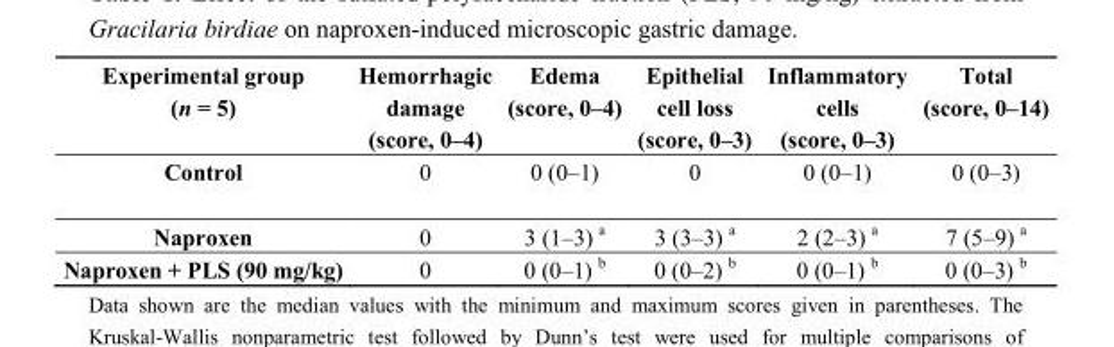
<table><thead><tr><td>Experimental group (n = 5)</td><td>Hemorrhagic damage (score, 0–4)</td><td>Edema (score, 0–4)</td><td>Epithelial cell loss (score, 0–3)</td><td>Inflammatory cells (score, 0–3)</td><td>Total (score, 0–14)</td></tr></thead><tbody><tr><td>Control</td><td>0</td><td>0 (0–1)</td><td>0</td><td>0 (0–1)</td><td>0 (0–3)</td></tr><tr><td>Naproxen</td><td>0</td><td>3 (1–3) <sup>a</sup></td><td>3 (3–3) <sup>a</sup></td><td>2 (2–3) <sup>a</sup></td><td>7 (5–9) <sup>a</sup></td></tr><tr><td>Naproxen + PLS (90 mg/kg)</td><td>0</td><td>0 (0–1) <sup>b</sup></td><td>0 (0–2) <sup>b</sup></td><td>0 (0–1) <sup>b</sup></td><td>0 (0–3) <sup>b</sup></td></tr></tbody></table>